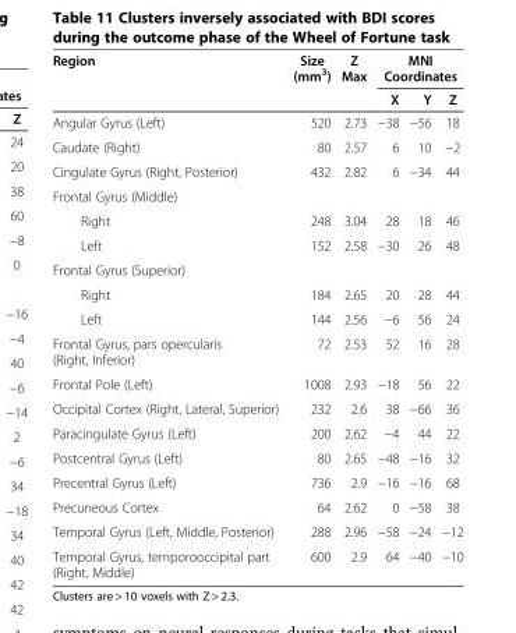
<table><thead><tr><td rowspan="2">Region</td><td rowspan="2">Size (mm<sup>3</sup>)</td><td rowspan="2">Z Max</td><td colspan="3">MNI Coordinates</td></tr><tr><td>X</td><td>Y</td><td>Z</td></tr></thead><tbody><tr><td>Angular Gyrus (Left)</td><td>520</td><td>2.73</td><td>−38</td><td>−56</td><td>18</td></tr><tr><td>Caudate (Right)</td><td>80</td><td>2.57</td><td>6</td><td>10</td><td>−2</td></tr><tr><td>Cingulate Gyrus (Right, Posterior)</td><td>432</td><td>2.82</td><td>6</td><td>−34</td><td>44</td></tr><tr><td colspan="6">Frontal Gyrus (Middle)</td></tr><tr><td>Right</td><td>248</td><td>3.04</td><td>28</td><td>18</td><td>46</td></tr><tr><td>Left</td><td>152</td><td>2.58</td><td>−30</td><td>26</td><td>48</td></tr><tr><td colspan="6">Frontal Gyrus (Superior)</td></tr><tr><td>Right</td><td>184</td><td>2.65</td><td>20</td><td>28</td><td>44</td></tr><tr><td>Left</td><td>144</td><td>2.56</td><td>−6</td><td>56</td><td>24</td></tr><tr><td>Frontal Gyrus, pars opercularis (Right, Inferior)</td><td>72</td><td>2.53</td><td>52</td><td>16</td><td>28</td></tr><tr><td>Frontal Pole (Left)</td><td>1008</td><td>2.93</td><td>−18</td><td>56</td><td>22</td></tr><tr><td>Occipital Cortex (Right, Lateral, Superior)</td><td>232</td><td>2.6</td><td>38</td><td>−66</td><td>36</td></tr><tr><td>Paracingulate Gyrus (Left)</td><td>200</td><td>2.62</td><td>−4</td><td>44</td><td>22</td></tr><tr><td>Postcentral Gyrus (Left)</td><td>80</td><td>2.65</td><td>−48</td><td>−16</td><td>32</td></tr><tr><td>Precentral Gyrus (Left)</td><td>736</td><td>2.9</td><td>−16</td><td>−16</td><td>68</td></tr><tr><td>Precuneous Cortex</td><td>64</td><td>2.62</td><td>0</td><td>−58</td><td>38</td></tr><tr><td>Temporal Gyrus (Left, Middle, Posterior)</td><td>288</td><td>2.96</td><td>−58</td><td>−24</td><td>−12</td></tr><tr><td>Temporal Gyrus, temporooccipital part (Right, Middle)</td><td>600</td><td>2.9</td><td>64</td><td>−40</td><td>−10</td></tr></tbody></table>